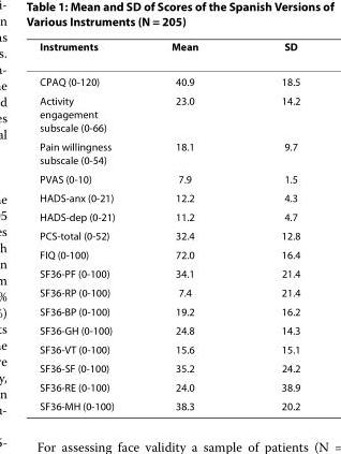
<table><thead><tr><td>Instruments</td><td>Mean</td><td>SD</td></tr></thead><tbody><tr><td>CPAQ (0-120)</td><td>40.9</td><td>18.5</td></tr><tr><td>Activity engagement subscale (0-66)</td><td>23.0</td><td>14.2</td></tr><tr><td>Pain willingness subscale (0-54)</td><td>18.1</td><td>9.7</td></tr><tr><td>PVAS (0-10)</td><td>7.9</td><td>1.5</td></tr><tr><td>HADS-anx (0-21)</td><td>12.2</td><td>4.3</td></tr><tr><td>HADS-dep (0-21)</td><td>11.2</td><td>4.7</td></tr><tr><td>PCS-total (0-52)</td><td>32.4</td><td>12.8</td></tr><tr><td>FIQ (0-100)</td><td>72.0</td><td>16.4</td></tr><tr><td>SF36-PF (0-100)</td><td>34.1</td><td>21.4</td></tr><tr><td>SF36-RP (0-100)</td><td>7.4</td><td>21.4</td></tr><tr><td>SF36-BP (0-100)</td><td>19.2</td><td>16.2</td></tr><tr><td>SF36-GH (0-100)</td><td>24.8</td><td>14.3</td></tr><tr><td>SF36-VT (0-100)</td><td>15.6</td><td>15.1</td></tr><tr><td>SF36-SF (0-100)</td><td>35.2</td><td>24.2</td></tr><tr><td>SF36-RE (0-100)</td><td>24.0</td><td>38.9</td></tr><tr><td>SF36-MH (0-100)</td><td>38.3</td><td>20.2</td></tr></tbody></table>